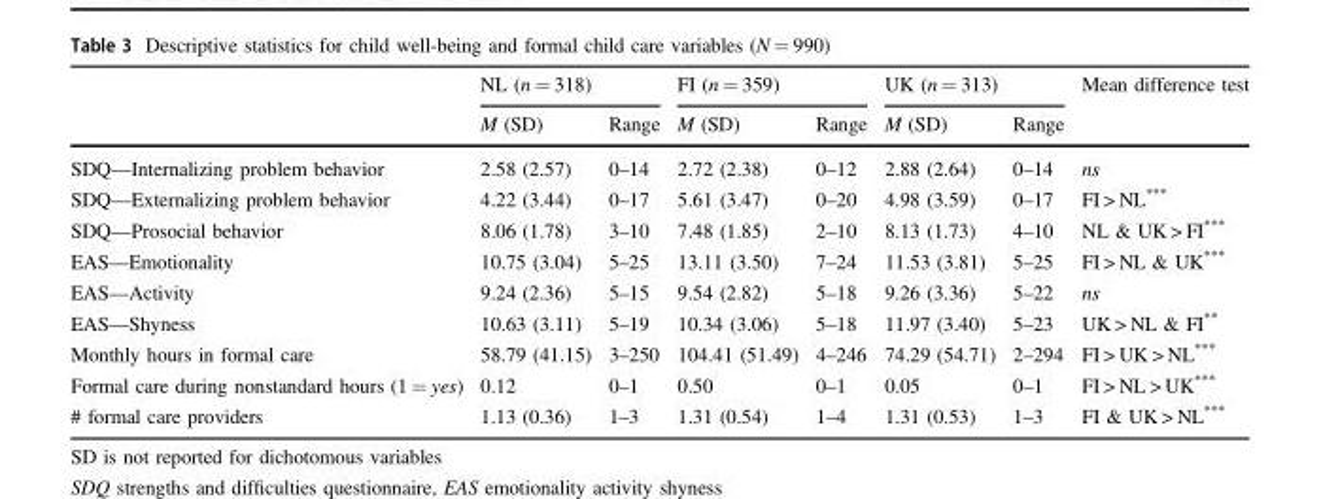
<table><thead><tr><td rowspan="2"></td><td colspan="2">NL (n = 318)</td><td colspan="2">FI (n = 359)</td><td colspan="2">UK (n = 313)</td><td rowspan="2">Mean difference test</td></tr><tr><td>M (SD)</td><td>Range</td><td>M (SD)</td><td>Range</td><td>M (SD)</td><td>Range</td></tr></thead><tbody><tr><td>SDQ—Internalizing problem behavior</td><td>2.58 (2.57)</td><td>0–14</td><td>2.72 (2.38)</td><td>0–12</td><td>2.88 (2.64)</td><td>0–14</td><td>ns</td></tr><tr><td>SDQ—Externalizing problem behavior</td><td>4.22 (3.44)</td><td>0–17</td><td>5.61 (3.47)</td><td>0–20</td><td>4.98 (3.59)</td><td>0–17</td><td>FI &gt; NL***</td></tr><tr><td>SDQ—Prosocial behavior</td><td>8.06 (1.78)</td><td>3–10</td><td>7.48 (1.85)</td><td>2–10</td><td>8.13 (1.73)</td><td>4–10</td><td>NL &amp; UK &gt; FI***</td></tr><tr><td>EAS—Emotionality</td><td>10.75 (3.04)</td><td>5–25</td><td>13.11 (3.50)</td><td>7–24</td><td>11.53 (3.81)</td><td>5–25</td><td>FI &gt; NL &amp; UK***</td></tr><tr><td>EAS—Activity</td><td>9.24 (2.36)</td><td>5–15</td><td>9.54 (2.82)</td><td>5–18</td><td>9.26 (3.36)</td><td>5–22</td><td>ns</td></tr><tr><td>EAS—Shyness</td><td>10.63 (3.11)</td><td>5–19</td><td>10.34 (3.06)</td><td>5–18</td><td>11.97 (3.40)</td><td>5–23</td><td>UK &gt; NL &amp; FI**</td></tr><tr><td>Monthly hours in formal care</td><td>58.79 (41.15)</td><td>3–250</td><td>104.41 (51.49)</td><td>4–246</td><td>74.29 (54.71)</td><td>2–294</td><td>FI &gt; UK &gt; NL***</td></tr><tr><td>Formal care during nonstandard hours (1 = yes)</td><td>0.12</td><td>0–1</td><td>0.50</td><td>0–1</td><td>0.05</td><td>0–1</td><td>FI &gt; NL &gt; UK***</td></tr><tr><td># formal care providers</td><td>1.13 (0.36)</td><td>1–3</td><td>1.31 (0.54)</td><td>1–4</td><td>1.31 (0.53)</td><td>1–3</td><td>FI &amp; UK &gt; NL***</td></tr></tbody></table>